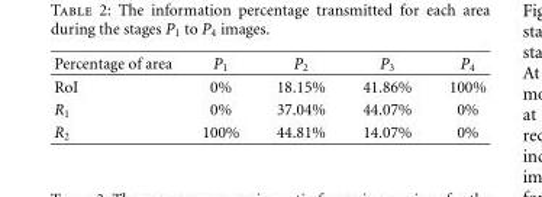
<table><thead><tr><td>Percentage of area</td><td>P<sub>1</sub></td><td>P<sub>2</sub></td><td>P<sub>3</sub></td><td>P<sub>4</sub></td></tr></thead><tbody><tr><td>RoI</td><td>0%</td><td>18.15%</td><td>41.86%</td><td>100%</td></tr><tr><td>R<sub>1</sub></td><td>0%</td><td>37.04%</td><td>44.07%</td><td>0%</td></tr><tr><td>R<sub>2</sub></td><td>100%</td><td>44.81%</td><td>14.07%</td><td>0%</td></tr></tbody></table>